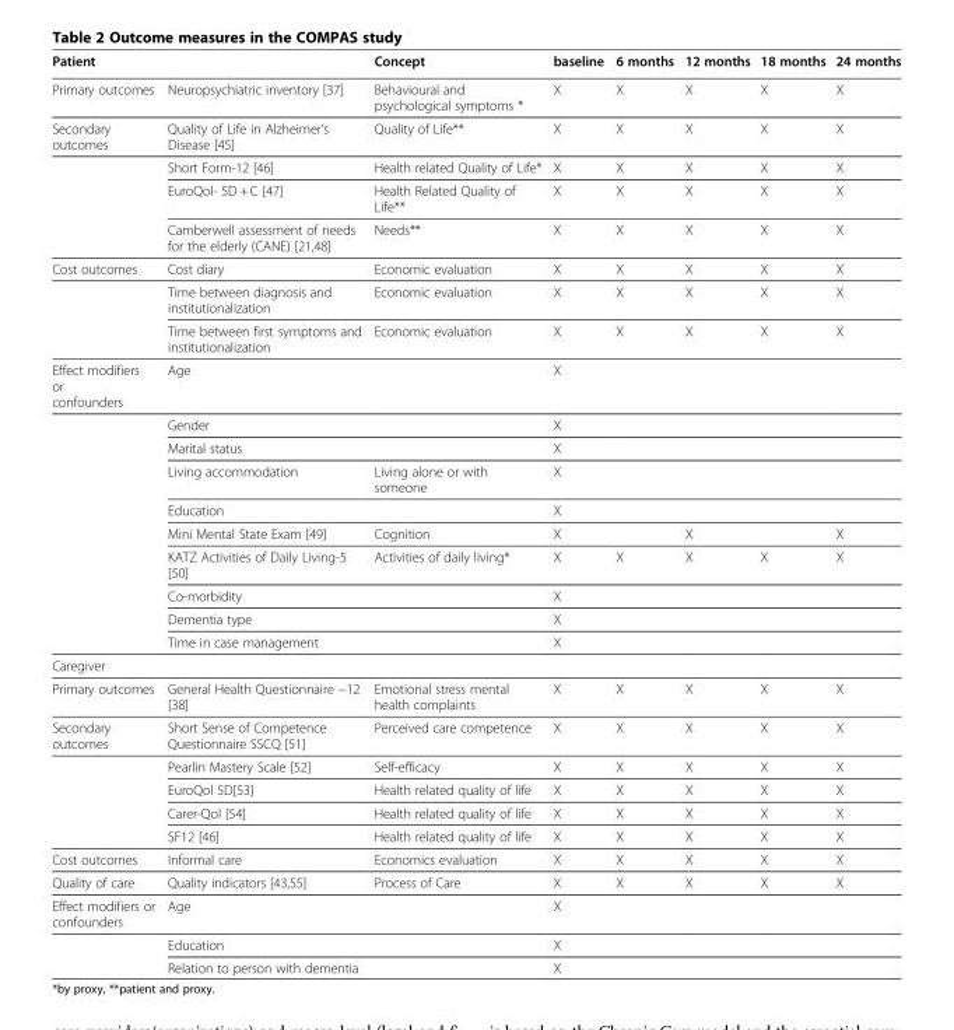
<table><thead><tr><td colspan="2">Patient</td><td rowspan="2">Concept Behavioural and psychological symptoms *</td><td rowspan="2">baseline X</td><td rowspan="2">6 months X</td><td rowspan="2">12 months X</td><td rowspan="2">18 months X</td><td rowspan="2">24 months X</td></tr><tr><td>Primary outcomes</td><td>Neuropsychiatric inventory [37]</td></tr></thead><tbody><tr><td rowspan="4">Secondary outcomes</td><td>Quality of Life in Alzheimer’s Disease [45]</td><td>Quality of Life**</td><td>X</td><td>X</td><td>X</td><td>X</td><td>X</td></tr><tr><td>Short Form-12 [46]</td><td>Health related Quality of Life*</td><td>X</td><td>X</td><td>X</td><td>X</td><td>X</td></tr><tr><td>EuroQol- 5D + C [47]</td><td>Health Related Quality of Life**</td><td>X</td><td>X</td><td>X</td><td>X</td><td>X</td></tr><tr><td>Camberwell assessment of needs for the elderly (CANE) [21,48]</td><td>Needs**</td><td>X</td><td>X</td><td>X</td><td>X</td><td>X</td></tr><tr><td rowspan="3">Cost outcomes</td><td>Cost diary</td><td>Economic evaluation</td><td>X</td><td>X</td><td>X</td><td>X</td><td>X</td></tr><tr><td>Time between diagnosis and institutionalization</td><td>Economic evaluation</td><td>X</td><td>X</td><td>X</td><td>X</td><td>X</td></tr><tr><td>Time between first symptoms and institutionalization</td><td>Economic evaluation</td><td>X</td><td>X</td><td>X</td><td>X</td><td>X</td></tr><tr><td rowspan="10">Effect modifiers or confounders</td><td>Age</td><td></td><td>X</td><td></td><td></td><td></td><td></td></tr><tr><td>Gender</td><td></td><td>X</td><td></td><td></td><td></td><td></td></tr><tr><td>Marital status</td><td></td><td>X</td><td></td><td></td><td></td><td></td></tr><tr><td>Living accommodation</td><td>Living alone or with someone</td><td>X</td><td></td><td></td><td></td><td></td></tr><tr><td>Education</td><td></td><td>X</td><td></td><td></td><td></td><td></td></tr><tr><td>Mini Mental State Exam [49]</td><td>Cognition</td><td>X</td><td></td><td>X</td><td></td><td>X</td></tr><tr><td>KATZ Activities of Daily Living-5 [50]</td><td>Activities of daily living*</td><td>X</td><td>X</td><td>X</td><td>X</td><td>X</td></tr><tr><td>Co-morbidity</td><td></td><td>X</td><td></td><td></td><td></td><td></td></tr><tr><td>Dementia type</td><td></td><td>X</td><td></td><td></td><td></td><td></td></tr><tr><td>Time in case management</td><td></td><td>X</td><td></td><td></td><td></td><td></td></tr><tr><td colspan="8">Caregiver</td></tr><tr><td>Primary outcomes</td><td>General Health Questionnaire −12 [38]</td><td>Emotional stress mental health complaints</td><td>X</td><td>X</td><td>X</td><td>X</td><td>X</td></tr><tr><td rowspan="5">Secondary outcomes</td><td>Short Sense of Competence Questionnaire SSCQ [51]</td><td>Perceived care competence</td><td>X</td><td>X</td><td>X</td><td>X</td><td>X</td></tr><tr><td>Pearlin Mastery Scale [52]</td><td>Self-efficacy</td><td>X</td><td>X</td><td>X</td><td>X</td><td>X</td></tr><tr><td>EuroQol 5D[53]</td><td>Health related quality of life</td><td>X</td><td>X</td><td>X</td><td>X</td><td>X</td></tr><tr><td>Carer-Qol [54]</td><td>Health related quality of life</td><td>X</td><td>X</td><td>X</td><td>X</td><td>X</td></tr><tr><td>SF12 [46]</td><td>Health related quality of life</td><td>X</td><td>X</td><td>X</td><td>X</td><td>X</td></tr><tr><td>Cost outcomes</td><td>Informal care</td><td>Economics evaluation</td><td>X</td><td>X</td><td>X</td><td>X</td><td>X</td></tr><tr><td>Quality of care</td><td>Quality indicators [43,55]</td><td>Process of Care</td><td>X</td><td>X</td><td>X</td><td>X</td><td>X</td></tr><tr><td rowspan="3">Effect modifiers or confounders</td><td>Age</td><td></td><td>X</td><td></td><td></td><td></td><td></td></tr><tr><td>Education</td><td></td><td>X</td><td></td><td></td><td></td><td></td></tr><tr><td>Relation to person with dementia</td><td></td><td>X</td><td></td><td></td><td></td><td></td></tr></tbody></table>